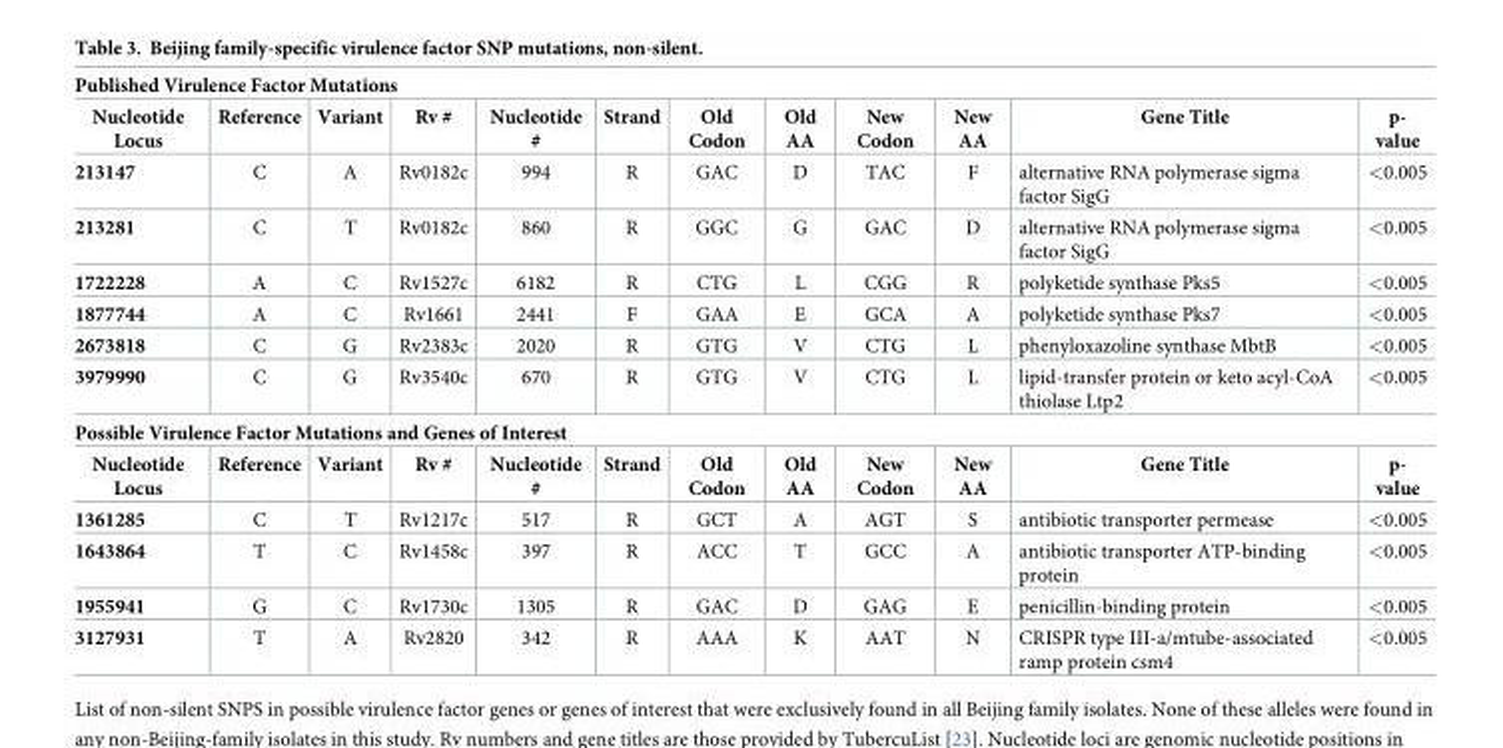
<table><tbody><tr><td colspan="12">Published Virulence Factor Mutations</td></tr><tr><td>Nucleotide Locus</td><td>Reference</td><td>Variant</td><td>Rv #</td><td>Nucleotide #</td><td>Strand</td><td>Old Codon</td><td>Old AA</td><td>New Codon</td><td>New AA</td><td>Gene Title</td><td>p- value</td></tr><tr><td>213147</td><td>C</td><td>A</td><td>Rv0182c</td><td>994</td><td>R</td><td>GAC</td><td>D</td><td>TAC</td><td>F</td><td>alternative RNA polymerase sigma factor SigG</td><td>&lt;0.005</td></tr><tr><td>213281</td><td>C</td><td>T</td><td>Rv0182c</td><td>860</td><td>R</td><td>GGC</td><td>G</td><td>GAC</td><td>D</td><td>alternative RNA polymerase sigma factor SigG</td><td>&lt;0.005</td></tr><tr><td>1722228</td><td>A</td><td>C</td><td>Rv1527c</td><td>6182</td><td>R</td><td>CTG</td><td>L</td><td>CGG</td><td>R</td><td>polyketide synthase Pks5</td><td>&lt;0.005</td></tr><tr><td>1877744</td><td>A</td><td>C</td><td>Rv1661</td><td>2441</td><td>F</td><td>GAA</td><td>E</td><td>GCA</td><td>A</td><td>polyketide synthase Pks7</td><td>&lt;0.005</td></tr><tr><td>2673818</td><td>C</td><td>G</td><td>Rv2383c</td><td>2020</td><td>R</td><td>GTG</td><td>V</td><td>CTG</td><td>L</td><td>phenyloxazoline synthase MbtB</td><td>&lt;0.005</td></tr><tr><td>3979990</td><td>C</td><td>G</td><td>Rv3540c</td><td>670</td><td>R</td><td>GTG</td><td>V</td><td>CTG</td><td>L</td><td>lipid-transfer protein or keto acyl-CoA thiolase Ltp2</td><td>&lt;0.005</td></tr><tr><td colspan="12">Possible Virulence Factor Mutations and Genes of Interest</td></tr><tr><td>Nucleotide Locus</td><td>Reference</td><td>Variant</td><td>Rv #</td><td>Nucleotide #</td><td>Strand</td><td>Old Codon</td><td>Old AA</td><td>New Codon</td><td>New AA</td><td>Gene Title</td><td>p- value</td></tr><tr><td>1361285</td><td>C</td><td>T</td><td>Rv1217c</td><td>517</td><td>R</td><td>GCT</td><td>A</td><td>AGT</td><td>S</td><td>antibiotic transporter permease</td><td>&lt;0.005</td></tr><tr><td>1643864</td><td>T</td><td>C</td><td>Rv1458c</td><td>397</td><td>R</td><td>ACC</td><td>T</td><td>GCC</td><td>A</td><td>antibiotic transporter ATP-binding protein</td><td>&lt;0.005</td></tr><tr><td>1955941</td><td>G</td><td>C</td><td>Rv1730c</td><td>1305</td><td>R</td><td>GAC</td><td>D</td><td>GAG</td><td>E</td><td>penicillin-binding protein</td><td>&lt;0.005</td></tr><tr><td>3127931</td><td>T</td><td>A</td><td>Rv2820</td><td>342</td><td>R</td><td>AAA</td><td>K</td><td>AAT</td><td>N</td><td>CRISPR type III-a/mtube-associated ramp protein csm4</td><td>&lt;0.005</td></tr></tbody></table>